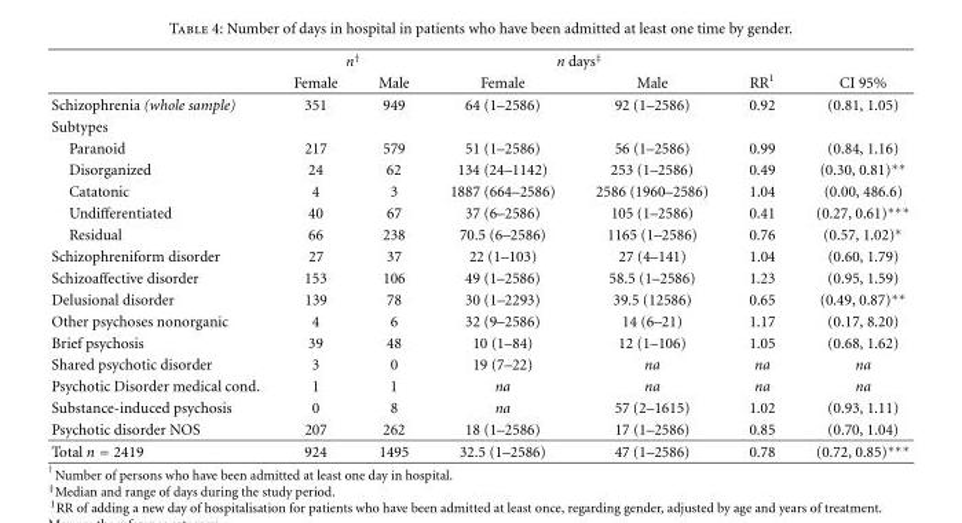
<table><thead><tr><td rowspan="2"></td><td colspan="2">n<sup>†</sup></td><td colspan="2">n days<sup>‡</sup></td><td rowspan="2">RR<sup>1</sup></td><td rowspan="2">CI 95%</td></tr><tr><td>Female</td><td>Male</td><td>Female</td><td>Male</td></tr></thead><tbody><tr><td>Schizophrenia (whole sample)</td><td>351</td><td>949</td><td>64 (1–2586)</td><td>92 (1–2586)</td><td>0.92</td><td>(0.81, 1.05)</td></tr><tr><td colspan="7">Subtypes</td></tr><tr><td>Paranoid</td><td>217</td><td>579</td><td>51 (1–2586)</td><td>56 (1–2586)</td><td>0.99</td><td>(0.84, 1.16)</td></tr><tr><td>Disorganized</td><td>24</td><td>62</td><td>134 (24–1142)</td><td>253 (1–2586)</td><td>0.49</td><td>(0.30, 0.81)∗∗</td></tr><tr><td>Catatonic</td><td>4</td><td>3</td><td>1887 (664–2586)</td><td>2586 (1960–2586)</td><td>1.04</td><td>(0.00, 486.6)</td></tr><tr><td>Undifferentiated</td><td>40</td><td>67</td><td>37 (6–2586)</td><td>105 (1–2586)</td><td>0.41</td><td>(0.27, 0.61)∗∗∗</td></tr><tr><td>Residual</td><td>66</td><td>238</td><td>70.5 (6–2586)</td><td>1165 (1–2586)</td><td>0.76</td><td>(0.57, 1.02)∗</td></tr><tr><td>Schizophreniform disorder</td><td>27</td><td>37</td><td>22 (1–103)</td><td>27 (4–141)</td><td>1.04</td><td>(0.60, 1.79)</td></tr><tr><td>Schizoaffective disorder</td><td>153</td><td>106</td><td>49 (1–2586)</td><td>58.5 (1–2586)</td><td>1.23</td><td>(0.95, 1.59)</td></tr><tr><td>Delusional disorder</td><td>139</td><td>78</td><td>30 (1–2293)</td><td>39.5 (12586)</td><td>0.65</td><td>(0.49, 0.87)∗∗</td></tr><tr><td>Other psychoses nonorganic</td><td>4</td><td>6</td><td>32 (9–2586)</td><td>14 (6–21)</td><td>1.17</td><td>(0.17, 8.20)</td></tr><tr><td>Brief psychosis</td><td>39</td><td>48</td><td>10 (1–84)</td><td>12 (1–106)</td><td>1.05</td><td>(0.68, 1.62)</td></tr><tr><td>Shared psychotic disorder</td><td>3</td><td>0</td><td>19 (7–22)</td><td>na</td><td>na</td><td>na</td></tr><tr><td>Psychotic Disorder medical cond.</td><td>1</td><td>1</td><td>na</td><td>na</td><td>na</td><td>na</td></tr><tr><td>Substance-induced psychosis</td><td>0</td><td>8</td><td>na</td><td>57 (2–1615)</td><td>1.02</td><td>(0.93, 1.11)</td></tr><tr><td>Psychotic disorder NOS</td><td>207</td><td>262</td><td>18 (1–2586)</td><td>17 (1–2586)</td><td>0.85</td><td>(0.70, 1.04)</td></tr><tr><td>Total n = 2419</td><td>924</td><td>1495</td><td>32.5 (1–2586)</td><td>47 (1–2586)</td><td>0.78</td><td>(0.72, 0.85)∗∗∗</td></tr></tbody></table>